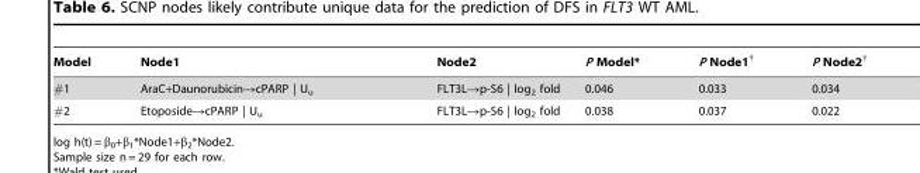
<table><thead><tr><td>Model</td><td>Node1</td><td>Node2</td><td>P Model*</td><td>P Node1†</td><td>P Node2†</td></tr></thead><tbody><tr><td>#1</td><td>AraC+Daunorubicin→cPARP | U<sub>u</sub></td><td>FLT3L→p-S6 | log<sub>2</sub> fold</td><td>0.046</td><td>0.033</td><td>0.034</td></tr><tr><td>#2</td><td>Etoposide→cPARP | U<sub>u</sub></td><td>FLT3L→p-S6 | log<sub>2</sub> fold</td><td>0.038</td><td>0.037</td><td>0.022</td></tr></tbody></table>